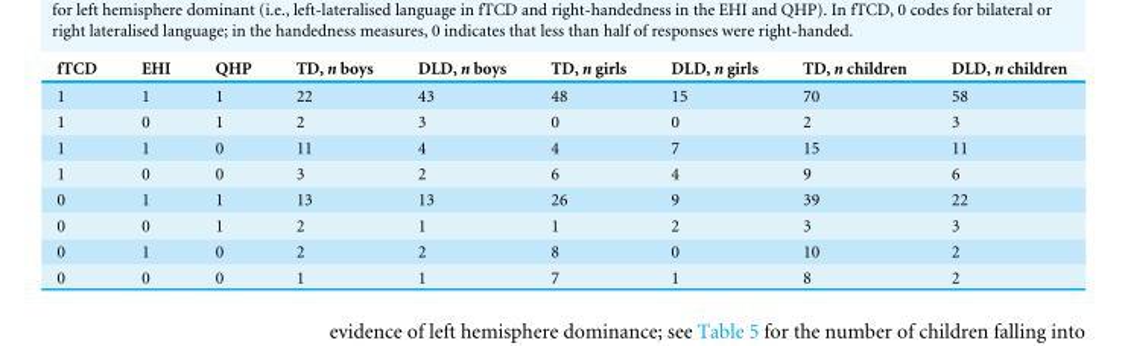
<table><thead><tr><td>fTCD</td><td>EHI</td><td>QHP</td><td>TD, n boys</td><td>DLD, n boys</td><td>TD, n girls</td><td>DLD, n girls</td><td>TD, n children</td><td>DLD, n children</td></tr></thead><tbody><tr><td>1</td><td>1</td><td>1</td><td>22</td><td>43</td><td>48</td><td>15</td><td>70</td><td>58</td></tr><tr><td>1</td><td>0</td><td>1</td><td>2</td><td>3</td><td>0</td><td>0</td><td>2</td><td>3</td></tr><tr><td>1</td><td>1</td><td>0</td><td>11</td><td>4</td><td>4</td><td>7</td><td>15</td><td>11</td></tr><tr><td>1</td><td>0</td><td>0</td><td>3</td><td>2</td><td>6</td><td>4</td><td>9</td><td>6</td></tr><tr><td>0</td><td>1</td><td>1</td><td>13</td><td>13</td><td>26</td><td>9</td><td>39</td><td>22</td></tr><tr><td>0</td><td>0</td><td>1</td><td>2</td><td>1</td><td>1</td><td>2</td><td>3</td><td>3</td></tr><tr><td>0</td><td>1</td><td>0</td><td>2</td><td>2</td><td>8</td><td>0</td><td>10</td><td>2</td></tr><tr><td>0</td><td>0</td><td>0</td><td>1</td><td>1</td><td>7</td><td>1</td><td>8</td><td>2</td></tr></tbody></table>